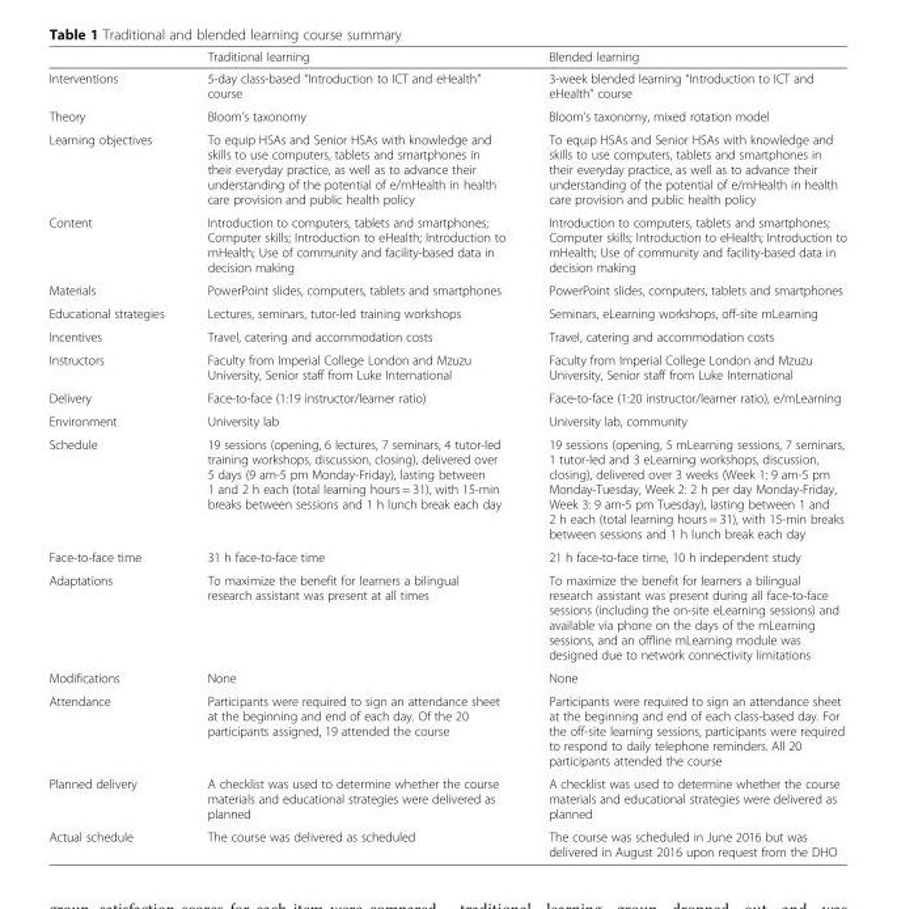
<table><thead><tr><td></td><td>Traditional learning</td><td>Blended learning</td></tr></thead><tbody><tr><td>Interventions</td><td>5-day class-based “Introduction to ICT and eHealth” course</td><td>3-week blended learning “Introduction to ICT and eHealth” course</td></tr><tr><td>Theory</td><td>Bloom’s taxonomy</td><td>Bloom’s taxonomy, mixed rotation model</td></tr><tr><td>Learning objectives</td><td>To equip HSAs and Senior HSAs with knowledge and skills to use computers, tablets and smartphones in their everyday practice, as well as to advance their understanding of the potential of e/mHealth in health care provision and public health policy</td><td>To equip HSAs and Senior HSAs with knowledge and skills to use computers, tablets and smartphones in their everyday practice, as well as to advance their understanding of the potential of e/mHealth in health care provision and public health policy</td></tr><tr><td>Content</td><td>Introduction to computers, tablets and smartphones; Computer skills; Introduction to eHealth; Introduction to mHealth; Use of community and facility-based data in decision making</td><td>Introduction to computers, tablets and smartphones; Computer skills; Introduction to eHealth; Introduction to mHealth; Use of community and facility-based data in decision making</td></tr><tr><td>Materials</td><td>PowerPoint slides, computers, tablets and smartphones</td><td>PowerPoint slides, computers, tablets and smartphones</td></tr><tr><td>Educational strategies</td><td>Lectures, seminars, tutor-led training workshops</td><td>Seminars, eLearning workshops, off-site mLearning</td></tr><tr><td>Incentives</td><td>Travel, catering and accommodation costs</td><td>Travel, catering and accommodation costs</td></tr><tr><td>Instructors</td><td>Faculty from Imperial College London and Mzuzu University, Senior staff from Luke International</td><td>Faculty from Imperial College London and Mzuzu University, Senior staff from Luke International</td></tr><tr><td>Delivery</td><td>Face-to-face (1:19 instructor/learner ratio)</td><td>Face-to-face (1:20 instructor/learner ratio), e/mLearning</td></tr><tr><td>Environment</td><td>University lab</td><td>University lab, community</td></tr><tr><td>Schedule</td><td>19 sessions (opening, 6 lectures, 7 seminars, 4 tutor-led training workshops, discussion, closing), delivered over 5 days (9 am-5 pm Monday-Friday), lasting between 1 and 2 h each (total learning hours = 31), with 15-min breaks between sessions and 1 h lunch break each day</td><td>19 sessions (opening, 5 mLearning sessions, 7 seminars, 1 tutor-led and 3 eLearning workshops, discussion, closing), delivered over 3 weeks (Week 1: 9 am-5 pm Monday-Tuesday, Week 2: 2 h per day Monday-Friday, Week 3: 9 am-5 pm Tuesday), lasting between 1 and 2 h each (total learning hours = 31), with 15-min breaks between sessions and 1 h lunch break each day</td></tr><tr><td>Face-to-face time</td><td>31 h face-to-face time</td><td>21 h face-to-face time, 10 h independent study</td></tr><tr><td>Adaptations</td><td>To maximize the benefit for learners a bilingual research assistant was present at all times</td><td>To maximize the benefit for learners a bilingual research assistant was present during all face-to-face sessions (including the on-site eLearning sessions) and available via phone on the days of the mLearning sessions, and an offline mLearning module was designed due to network connectivity limitations</td></tr><tr><td>Modifications</td><td>None</td><td>None</td></tr><tr><td>Attendance</td><td>Participants were required to sign an attendance sheet at the beginning and end of each day. Of the 20 participants assigned, 19 attended the course</td><td>Participants were required to sign an attendance sheet at the beginning and end of each class-based day. For the off-site learning sessions, participants were required to respond to daily telephone reminders. All 20 participants attended the course</td></tr><tr><td>Planned delivery</td><td>A checklist was used to determine whether the course materials and educational strategies were delivered as planned</td><td>A checklist was used to determine whether the course materials and educational strategies were delivered as planned</td></tr><tr><td>Actual schedule</td><td>The course was delivered as scheduled</td><td>The course was scheduled in June 2016 but was delivered in August 2016 upon request from the DHO</td></tr></tbody></table>